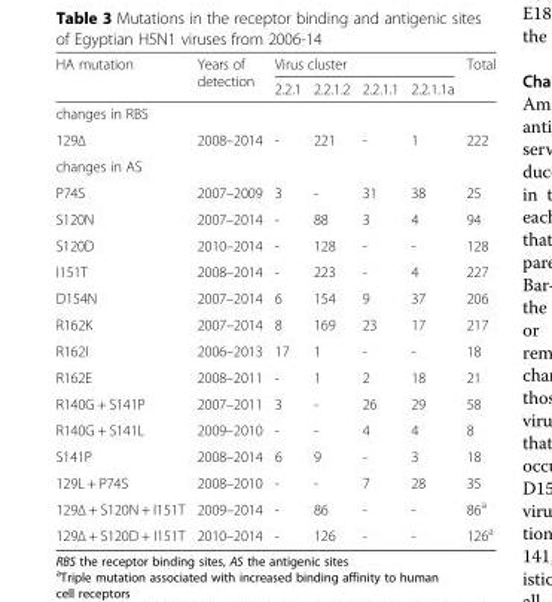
<table><thead><tr><td rowspan="2">HA mutation</td><td rowspan="2">Years of detection</td><td colspan="4">Virus cluster</td><td rowspan="2">Total</td></tr><tr><td>2.2.1</td><td>2.2.1.2</td><td>2.2.1.1</td><td>2.2.1.1a</td></tr></thead><tbody><tr><td colspan="7">changes in RBS</td></tr><tr><td>129Δ</td><td>2008–2014</td><td>-</td><td>221</td><td>-</td><td>1</td><td>222</td></tr><tr><td colspan="7">changes in AS</td></tr><tr><td>P74S</td><td>2007–2009</td><td>3</td><td>-</td><td>31</td><td>38</td><td>25</td></tr><tr><td>S120N</td><td>2007–2014</td><td>-</td><td>88</td><td>3</td><td>4</td><td>94</td></tr><tr><td>S120D</td><td>2010–2014</td><td>-</td><td>128</td><td>-</td><td>-</td><td>128</td></tr><tr><td>I151T</td><td>2008–2014</td><td>-</td><td>223</td><td>-</td><td>4</td><td>227</td></tr><tr><td>D154N</td><td>2007–2014</td><td>6</td><td>154</td><td>9</td><td>37</td><td>206</td></tr><tr><td>R162K</td><td>2007–2014</td><td>8</td><td>169</td><td>23</td><td>17</td><td>217</td></tr><tr><td>R162I</td><td>2006–2013</td><td>17</td><td>1</td><td>-</td><td>-</td><td>18</td></tr><tr><td>R162E</td><td>2008–2011</td><td>-</td><td>1</td><td>2</td><td>18</td><td>21</td></tr><tr><td>R140G + S141P</td><td>2007–2011</td><td>3</td><td>-</td><td>26</td><td>29</td><td>58</td></tr><tr><td>R140G + S141L</td><td>2009–2010</td><td>-</td><td>-</td><td>4</td><td>4</td><td>8</td></tr><tr><td>S141P</td><td>2008–2014</td><td>6</td><td>9</td><td>-</td><td>3</td><td>18</td></tr><tr><td>129L + P74S</td><td>2008–2010</td><td>-</td><td>-</td><td>7</td><td>28</td><td>35</td></tr><tr><td>129Δ + S120N + I151T</td><td>2009–2014</td><td>-</td><td>86</td><td>-</td><td>-</td><td>86<sup>a</sup></td></tr><tr><td>129Δ + S120D + I151T</td><td>2010–2014</td><td>-</td><td>126</td><td>-</td><td>-</td><td>126<sup>a</sup></td></tr></tbody></table>